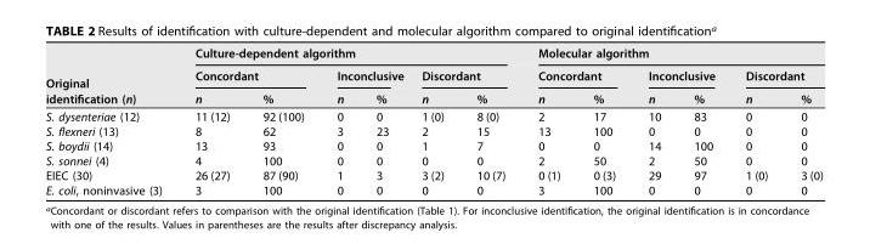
<table><thead><tr><td rowspan="3">Original identification (n)</td><td colspan="6">Culture-dependent algorithm</td><td colspan="6">Molecular algorithm</td></tr><tr><td colspan="2">Concordant</td><td colspan="2">Inconclusive</td><td colspan="2">Discordant</td><td colspan="2">Concordant</td><td colspan="2">Inconclusive</td><td colspan="2">Discordant</td></tr><tr><td>n</td><td>%</td><td>n</td><td>%</td><td>n</td><td>%</td><td>n</td><td>%</td><td>n</td><td>%</td><td>n</td><td>%</td></tr></thead><tbody><tr><td>S. dysenteriae (12)</td><td>11 (12)</td><td>92 (100)</td><td>0</td><td>0</td><td>1 (0)</td><td>8 (0)</td><td>2</td><td>17</td><td>10</td><td>83</td><td>0</td><td>0</td></tr><tr><td>S. flexneri (13)</td><td>8</td><td>62</td><td>3</td><td>23</td><td>2</td><td>15</td><td>13</td><td>100</td><td>0</td><td>0</td><td>0</td><td>0</td></tr><tr><td>S. boydii (14)</td><td>13</td><td>93</td><td>0</td><td>0</td><td>1</td><td>7</td><td>0</td><td>0</td><td>14</td><td>100</td><td>0</td><td>0</td></tr><tr><td>S. sonnei (4)</td><td>4</td><td>100</td><td>0</td><td>0</td><td>0</td><td>0</td><td>2</td><td>50</td><td>2</td><td>50</td><td>0</td><td>0</td></tr><tr><td>EIEC (30)</td><td>26 (27)</td><td>87 (90)</td><td>1</td><td>3</td><td>3 (2)</td><td>10 (7)</td><td>0 (1)</td><td>0 (3)</td><td>29</td><td>97</td><td>1 (0)</td><td>3 (0)</td></tr><tr><td>E. coli, noninvasive (3)</td><td>3</td><td>100</td><td>0</td><td>0</td><td>0</td><td>0</td><td>3</td><td>100</td><td>0</td><td>0</td><td>0</td><td>0</td></tr></tbody></table>